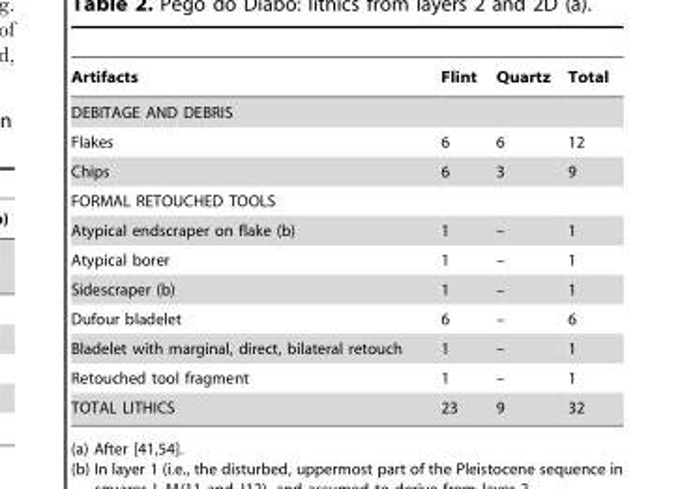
<table><thead><tr><td>Artifacts</td><td>Flint</td><td>Quartz</td><td>Total</td></tr></thead><tbody><tr><td colspan="4">DEBITAGE AND DEBRIS</td></tr><tr><td>Flakes</td><td>6</td><td>6</td><td>12</td></tr><tr><td>Chips</td><td>6</td><td>3</td><td>9</td></tr><tr><td colspan="4">FORMAL RETOUCHED TOOLS</td></tr><tr><td>Atypical endscraper on flake (b)</td><td>1</td><td>–</td><td>1</td></tr><tr><td>Atypical borer</td><td>1</td><td>–</td><td>1</td></tr><tr><td>Sidescraper (b)</td><td>1</td><td>–</td><td>1</td></tr><tr><td>Dufour bladelet</td><td>6</td><td>–</td><td>6</td></tr><tr><td>Bladelet with marginal, direct, bilateral retouch</td><td>1</td><td>–</td><td>1</td></tr><tr><td>Retouched tool fragment</td><td>1</td><td>–</td><td>1</td></tr><tr><td>TOTAL LITHICS</td><td>23</td><td>9</td><td>32</td></tr></tbody></table>